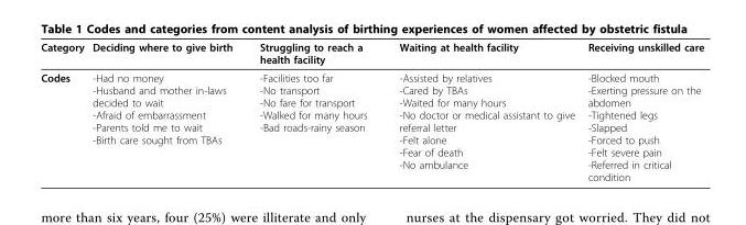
<table><thead><tr><td>Category</td><td>Deciding where to give birth</td><td>Struggling to reach a health facility</td><td>Waiting at health facility</td><td>Receiving unskilled care</td></tr></thead><tbody><tr><td>Codes</td><td>-Had no money -Husband and mother in-laws decided to wait -Afraid of embarrassment -Parents told me to wait -Birth care sought from TBAs</td><td>-Facilities too far -No transport -No fare for transport -Walked for many hours -Bad roads-rainy season</td><td>-Assisted by relatives -Cared by TBAs -Waited for many hours -No doctor or medical assistant to give referral letter -Felt alone -Fear of death -No ambulance</td><td>-Blocked mouth -Exerting pressure on the abdomen -Tightened legs -Slapped -Forced to push -Felt severe pain -Referred in critical condition</td></tr></tbody></table>